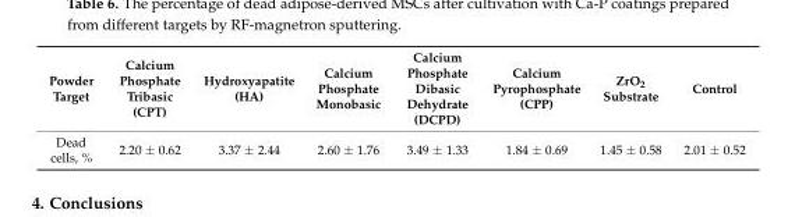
<table><thead><tr><td>Powder Target</td><td>Calcium Phosphate Tribasic (CPT)</td><td>Hydroxyapatite (HA)</td><td>Calcium Phosphate Monobasic</td><td>Calcium Phosphate Dibasic Dehydrate (DCPD)</td><td>Calcium Pyrophosphate (CPP)</td><td>ZrO<sub>2</sub> Substrate</td><td>Control</td></tr></thead><tbody><tr><td>Dead cells, %</td><td>2.20 ± 0.62</td><td>3.37 ± 2.44</td><td>2.60 ± 1.76</td><td>3.49 ± 1.33</td><td>1.84 ± 0.69</td><td>1.45 ± 0.58</td><td>2.01 ± 0.52</td></tr></tbody></table>